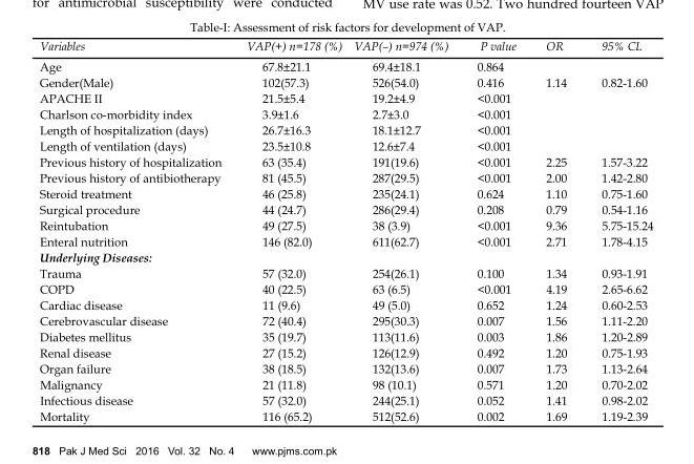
<table><thead><tr><td>Variables</td><td>VAP(+) n=178 (%)</td><td>VAP(–) n=974 (%)</td><td>P value</td><td>OR</td><td>95% CL</td></tr></thead><tbody><tr><td>Age</td><td>67.8±21.1</td><td>69.4±18.1</td><td>0.864</td><td></td><td></td></tr><tr><td>Gender(Male)</td><td>102(57.3)</td><td>526(54.0)</td><td>0.416</td><td>1.14</td><td>0.82-1.60</td></tr><tr><td>APACHE II</td><td>21.5±5.4</td><td>19.2±4.9</td><td>&lt;0.001</td><td></td><td></td></tr><tr><td>Charlson co-morbidity index</td><td>3.9±1.6</td><td>2.7±3.0</td><td>&lt;0.001</td><td></td><td></td></tr><tr><td>Length of hospitalization (days)</td><td>26.7±16.3</td><td>18.1±12.7</td><td>&lt;0.001</td><td></td><td></td></tr><tr><td>Length of ventilation (days)</td><td>23.5±10.8</td><td>12.6±7.4</td><td>&lt;0.001</td><td></td><td></td></tr><tr><td>Previous history of hospitalization</td><td>63 (35.4)</td><td>191(19.6)</td><td>&lt;0.001</td><td>2.25</td><td>1.57-3.22</td></tr><tr><td>Previous history of antibiotherapy</td><td>81 (45.5)</td><td>287(29.5)</td><td>&lt;0.001</td><td>2.00</td><td>1.42-2.80</td></tr><tr><td>Steroid treatment</td><td>46 (25.8)</td><td>235(24.1)</td><td>0.624</td><td>1.10</td><td>0.75-1.60</td></tr><tr><td>Surgical procedure</td><td>44 (24.7)</td><td>286(29.4)</td><td>0.208</td><td>0.79</td><td>0.54-1.16</td></tr><tr><td>Reintubation</td><td>49 (27.5)</td><td>38 (3.9)</td><td>&lt;0.001</td><td>9.36</td><td>5.75-15.24</td></tr><tr><td>Enteral nutrition</td><td>146 (82.0)</td><td>611(62.7)</td><td>&lt;0.001</td><td>2.71</td><td>1.78-4.15</td></tr><tr><td colspan="6">Underlying Diseases:</td></tr><tr><td>Trauma</td><td>57 (32.0)</td><td>254(26.1)</td><td>0.100</td><td>1.34</td><td>0.93-1.91</td></tr><tr><td>COPD</td><td>40 (22.5)</td><td>63 (6.5)</td><td>&lt;0.001</td><td>4.19</td><td>2.65-6.62</td></tr><tr><td>Cardiac disease</td><td>11 (9.6)</td><td>49 (5.0)</td><td>0.652</td><td>1.24</td><td>0.60-2.53</td></tr><tr><td>Cerebrovascular disease</td><td>72 (40.4)</td><td>295(30.3)</td><td>0.007</td><td>1.56</td><td>1.11-2.20</td></tr><tr><td>Diabetes mellitus</td><td>35 (19.7)</td><td>113(11.6)</td><td>0.003</td><td>1.86</td><td>1.20-2.89</td></tr><tr><td>Renal disease</td><td>27 (15.2)</td><td>126(12.9)</td><td>0.492</td><td>1.20</td><td>0.75-1.93</td></tr><tr><td>Organ failure</td><td>38 (18.5)</td><td>132(13.6)</td><td>0.007</td><td>1.73</td><td>1.13-2.64</td></tr><tr><td>Malignancy</td><td>21 (11.8)</td><td>98 (10.1)</td><td>0.571</td><td>1.20</td><td>0.70-2.02</td></tr><tr><td>Infectious disease</td><td>57 (32.0)</td><td>244(25.1)</td><td>0.052</td><td>1.41</td><td>0.98-2.02</td></tr><tr><td>Mortality</td><td>116 (65.2)</td><td>512(52.6)</td><td>0.002</td><td>1.69</td><td>1.19-2.39</td></tr></tbody></table>